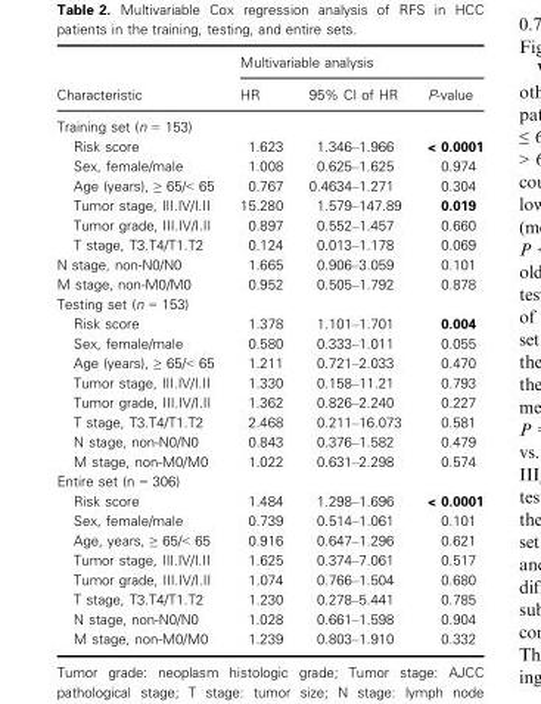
<table><thead><tr><td rowspan="2">Characteristic</td><td colspan="3">Multivariable analysis</td></tr><tr><td>HR</td><td>95% CI of HR</td><td>P-value</td></tr></thead><tbody><tr><td colspan="4">Training set (n = 153)</td></tr><tr><td>Risk score</td><td>1.623</td><td>1.346–1.966</td><td>&lt; 0.0001</td></tr><tr><td>Sex, female/male</td><td>1.008</td><td>0.625–1.625</td><td>0.974</td></tr><tr><td>Age (years), ≥ 65/&lt; 65</td><td>0.767</td><td>0.4634–1.271</td><td>0.304</td></tr><tr><td>Tumor stage, III.IV/I.II</td><td>15.280</td><td>1.579–147.89</td><td>0.019</td></tr><tr><td>Tumor grade, III.IV/I.II</td><td>0.897</td><td>0.552–1.457</td><td>0.660</td></tr><tr><td>T stage, T3.T4/T1.T2</td><td>0.124</td><td>0.013–1.178</td><td>0.069</td></tr><tr><td>N stage, non-N0/N0</td><td>1.665</td><td>0.906–3.059</td><td>0.101</td></tr><tr><td>M stage, non-M0/M0</td><td>0.952</td><td>0.505–1.792</td><td>0.878</td></tr><tr><td colspan="4">Testing set (n = 153)</td></tr><tr><td>Risk score</td><td>1.378</td><td>1.101–1.701</td><td>0.004</td></tr><tr><td>Sex, female/male</td><td>0.580</td><td>0.333–1.011</td><td>0.055</td></tr><tr><td>Age (years), ≥ 65/&lt; 65</td><td>1.211</td><td>0.721–2.033</td><td>0.470</td></tr><tr><td>Tumor stage, III.IV/I.II</td><td>1.330</td><td>0.158–11.21</td><td>0.793</td></tr><tr><td>Tumor grade, III.IV/I.II</td><td>1.362</td><td>0.826–2.240</td><td>0.227</td></tr><tr><td>T stage, T3.T4/T1.T2</td><td>2.468</td><td>0.211–16.073</td><td>0.581</td></tr><tr><td>N stage, non-N0/N0</td><td>0.843</td><td>0.376–1.582</td><td>0.479</td></tr><tr><td>M stage, non-M0/M0</td><td>1.022</td><td>0.631–2.298</td><td>0.574</td></tr><tr><td colspan="4">Entire set (n = 306)</td></tr><tr><td>Risk score</td><td>1.484</td><td>1.298–1.696</td><td>&lt; 0.0001</td></tr><tr><td>Sex, female/male</td><td>0.739</td><td>0.514–1.061</td><td>0.101</td></tr><tr><td>Age, years, ≥ 65/&lt; 65</td><td>0.916</td><td>0.647–1.296</td><td>0.621</td></tr><tr><td>Tumor stage, III.IV/I.II</td><td>1.625</td><td>0.374–7.061</td><td>0.517</td></tr><tr><td>Tumor grade, III.IV/I.II</td><td>1.074</td><td>0.766–1.504</td><td>0.680</td></tr><tr><td>T stage, T3.T4/T1.T2</td><td>1.230</td><td>0.278–5.441</td><td>0.785</td></tr><tr><td>N stage, non-N0/N0</td><td>1.028</td><td>0.661–1.598</td><td>0.904</td></tr><tr><td>M stage, non-M0/M0</td><td>1.239</td><td>0.803–1.910</td><td>0.332</td></tr></tbody></table>